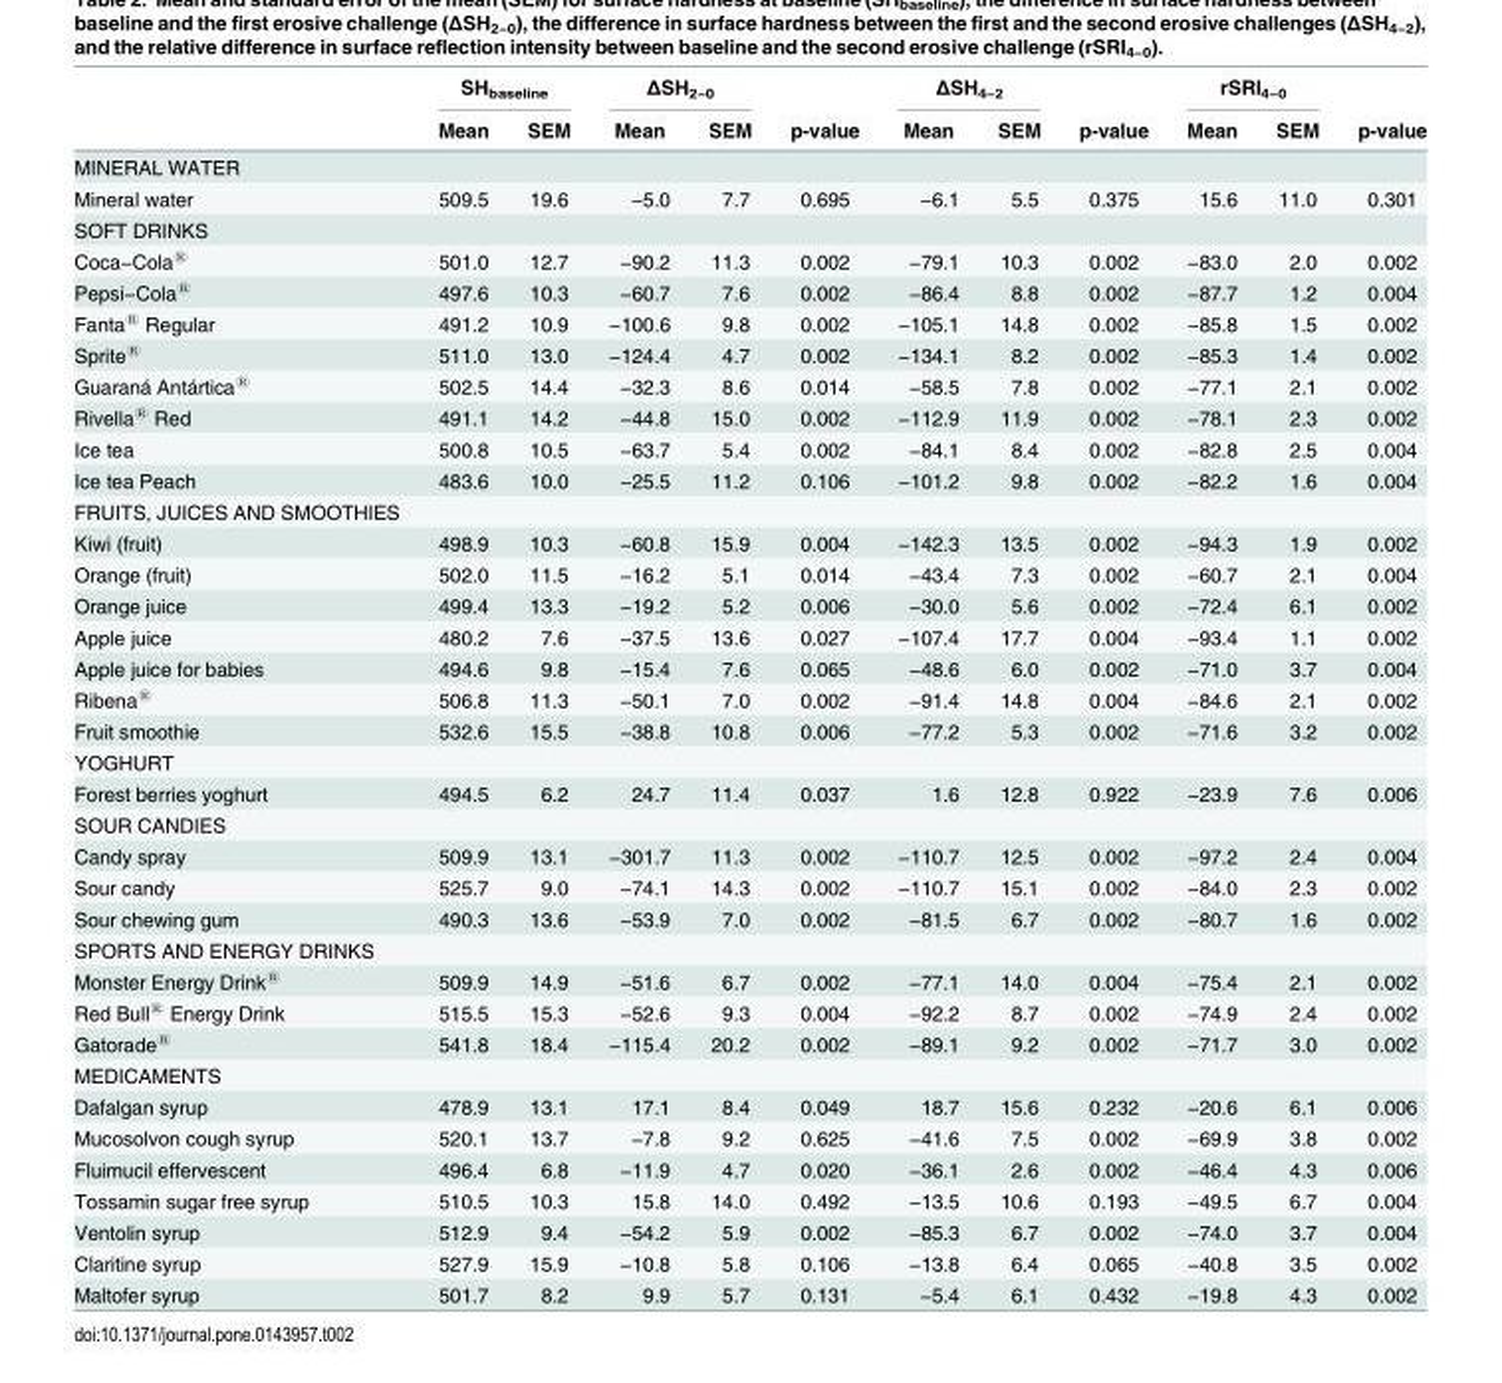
<table><thead><tr><td rowspan="2"></td><td colspan="2">SH<sub>baseline</sub></td><td colspan="2">ΔSH<sub>2−0</sub></td><td rowspan="2">p-value</td><td colspan="2">ΔSH<sub>4−2</sub></td><td rowspan="2">p-value</td><td colspan="2">rSRI<sub>4−0</sub></td><td rowspan="2">p-value</td></tr><tr><td>Mean</td><td>SEM</td><td>Mean</td><td>SEM</td><td>Mean</td><td>SEM</td><td>Mean</td><td>SEM</td></tr></thead><tbody><tr><td colspan="12">MINERAL WATER</td></tr><tr><td>Mineral water</td><td>509.5</td><td>19.6</td><td>−5.0</td><td>7.7</td><td>0.695</td><td>−6.1</td><td>5.5</td><td>0.375</td><td>15.6</td><td>11.0</td><td>0.301</td></tr><tr><td colspan="12">SOFT DRINKS</td></tr><tr><td>Coca−Cola<sup>®</sup></td><td>501.0</td><td>12.7</td><td>−90.2</td><td>11.3</td><td>0.002</td><td>−79.1</td><td>10.3</td><td>0.002</td><td>−83.0</td><td>2.0</td><td>0.002</td></tr><tr><td>Pepsi−Cola<sup>®</sup></td><td>497.6</td><td>10.3</td><td>−60.7</td><td>7.6</td><td>0.002</td><td>−86.4</td><td>8.8</td><td>0.002</td><td>−87.7</td><td>1.2</td><td>0.004</td></tr><tr><td>Fanta<sup>®</sup> Regular</td><td>491.2</td><td>10.9</td><td>−100.6</td><td>9.8</td><td>0.002</td><td>−105.1</td><td>14.8</td><td>0.002</td><td>−85.8</td><td>1.5</td><td>0.002</td></tr><tr><td>Sprite<sup>®</sup></td><td>511.0</td><td>13.0</td><td>−124.4</td><td>4.7</td><td>0.002</td><td>−134.1</td><td>8.2</td><td>0.002</td><td>−85.3</td><td>1.4</td><td>0.002</td></tr><tr><td>Guaraná Antártica<sup>®</sup></td><td>502.5</td><td>14.4</td><td>−32.3</td><td>8.6</td><td>0.014</td><td>−58.5</td><td>7.8</td><td>0.002</td><td>−77.1</td><td>2.1</td><td>0.002</td></tr><tr><td>Rivella<sup>®</sup> Red</td><td>491.1</td><td>14.2</td><td>−44.8</td><td>15.0</td><td>0.002</td><td>−112.9</td><td>11.9</td><td>0.002</td><td>−78.1</td><td>2.3</td><td>0.002</td></tr><tr><td>Ice tea</td><td>500.8</td><td>10.5</td><td>−63.7</td><td>5.4</td><td>0.002</td><td>−84.1</td><td>8.4</td><td>0.002</td><td>−82.8</td><td>2.5</td><td>0.004</td></tr><tr><td>Ice tea Peach</td><td>483.6</td><td>10.0</td><td>−25.5</td><td>11.2</td><td>0.106</td><td>−101.2</td><td>9.8</td><td>0.002</td><td>−82.2</td><td>1.6</td><td>0.004</td></tr><tr><td colspan="12">FRUITS, JUICES AND SMOOTHIES</td></tr><tr><td>Kiwi (fruit)</td><td>498.9</td><td>10.3</td><td>−60.8</td><td>15.9</td><td>0.004</td><td>−142.3</td><td>13.5</td><td>0.002</td><td>−94.3</td><td>1.9</td><td>0.002</td></tr><tr><td>Orange (fruit)</td><td>502.0</td><td>11.5</td><td>−16.2</td><td>5.1</td><td>0.014</td><td>−43.4</td><td>7.3</td><td>0.002</td><td>−60.7</td><td>2.1</td><td>0.004</td></tr><tr><td>Orange juice</td><td>499.4</td><td>13.3</td><td>−19.2</td><td>5.2</td><td>0.006</td><td>−30.0</td><td>5.6</td><td>0.002</td><td>−72.4</td><td>6.1</td><td>0.002</td></tr><tr><td>Apple juice</td><td>480.2</td><td>7.6</td><td>−37.5</td><td>13.6</td><td>0.027</td><td>−107.4</td><td>17.7</td><td>0.004</td><td>−93.4</td><td>1.1</td><td>0.002</td></tr><tr><td>Apple juice for babies</td><td>494.6</td><td>9.8</td><td>−15.4</td><td>7.6</td><td>0.065</td><td>−48.6</td><td>6.0</td><td>0.002</td><td>−71.0</td><td>3.7</td><td>0.004</td></tr><tr><td>Ribena<sup>®</sup></td><td>506.8</td><td>11.3</td><td>−50.1</td><td>7.0</td><td>0.002</td><td>−91.4</td><td>14.8</td><td>0.004</td><td>−84.6</td><td>2.1</td><td>0.002</td></tr><tr><td>Fruit smoothie</td><td>532.6</td><td>15.5</td><td>−38.8</td><td>10.8</td><td>0.006</td><td>−77.2</td><td>5.3</td><td>0.002</td><td>−71.6</td><td>3.2</td><td>0.002</td></tr><tr><td colspan="12">YOGHURT</td></tr><tr><td>Forest berries yoghurt</td><td>494.5</td><td>6.2</td><td>24.7</td><td>11.4</td><td>0.037</td><td>1.6</td><td>12.8</td><td>0.922</td><td>−23.9</td><td>7.6</td><td>0.006</td></tr><tr><td colspan="12">SOUR CANDIES</td></tr><tr><td>Candy spray</td><td>509.9</td><td>13.1</td><td>−301.7</td><td>11.3</td><td>0.002</td><td>−110.7</td><td>12.5</td><td>0.002</td><td>−97.2</td><td>2.4</td><td>0.004</td></tr><tr><td>Sour candy</td><td>525.7</td><td>9.0</td><td>−74.1</td><td>14.3</td><td>0.002</td><td>−110.7</td><td>15.1</td><td>0.002</td><td>−84.0</td><td>2.3</td><td>0.002</td></tr><tr><td>Sour chewing gum</td><td>490.3</td><td>13.6</td><td>−53.9</td><td>7.0</td><td>0.002</td><td>−81.5</td><td>6.7</td><td>0.002</td><td>−80.7</td><td>1.6</td><td>0.002</td></tr><tr><td colspan="12">SPORTS AND ENERGY DRINKS</td></tr><tr><td>Monster Energy Drink<sup>®</sup></td><td>509.9</td><td>14.9</td><td>−51.6</td><td>6.7</td><td>0.002</td><td>−77.1</td><td>14.0</td><td>0.004</td><td>−75.4</td><td>2.1</td><td>0.002</td></tr><tr><td>Red Bull<sup>®</sup> Energy Drink</td><td>515.5</td><td>15.3</td><td>−52.6</td><td>9.3</td><td>0.004</td><td>−92.2</td><td>8.7</td><td>0.002</td><td>−74.9</td><td>2.4</td><td>0.002</td></tr><tr><td>Gatorade<sup>®</sup></td><td>541.8</td><td>18.4</td><td>−115.4</td><td>20.2</td><td>0.002</td><td>−89.1</td><td>9.2</td><td>0.002</td><td>−71.7</td><td>3.0</td><td>0.002</td></tr><tr><td colspan="12">MEDICAMENTS</td></tr><tr><td>Dafalgan syrup</td><td>478.9</td><td>13.1</td><td>17.1</td><td>8.4</td><td>0.049</td><td>18.7</td><td>15.6</td><td>0.232</td><td>−20.6</td><td>6.1</td><td>0.006</td></tr><tr><td>Mucosolvon cough syrup</td><td>520.1</td><td>13.7</td><td>−7.8</td><td>9.2</td><td>0.625</td><td>−41.6</td><td>7.5</td><td>0.002</td><td>−69.9</td><td>3.8</td><td>0.002</td></tr><tr><td>Fluimucil effervescent</td><td>496.4</td><td>6.8</td><td>−11.9</td><td>4.7</td><td>0.020</td><td>−36.1</td><td>2.6</td><td>0.002</td><td>−46.4</td><td>4.3</td><td>0.006</td></tr><tr><td>Tossamin sugar free syrup</td><td>510.5</td><td>10.3</td><td>15.8</td><td>14.0</td><td>0.492</td><td>−13.5</td><td>10.6</td><td>0.193</td><td>−49.5</td><td>6.7</td><td>0.004</td></tr><tr><td>Ventolin syrup</td><td>512.9</td><td>9.4</td><td>−54.2</td><td>5.9</td><td>0.002</td><td>−85.3</td><td>6.7</td><td>0.002</td><td>−74.0</td><td>3.7</td><td>0.004</td></tr><tr><td>Claritine syrup</td><td>527.9</td><td>15.9</td><td>−10.8</td><td>5.8</td><td>0.106</td><td>−13.8</td><td>6.4</td><td>0.065</td><td>−40.8</td><td>3.5</td><td>0.002</td></tr><tr><td>Maltofer syrup</td><td>501.7</td><td>8.2</td><td>9.9</td><td>5.7</td><td>0.131</td><td>−5.4</td><td>6.1</td><td>0.432</td><td>−19.8</td><td>4.3</td><td>0.002</td></tr></tbody></table>